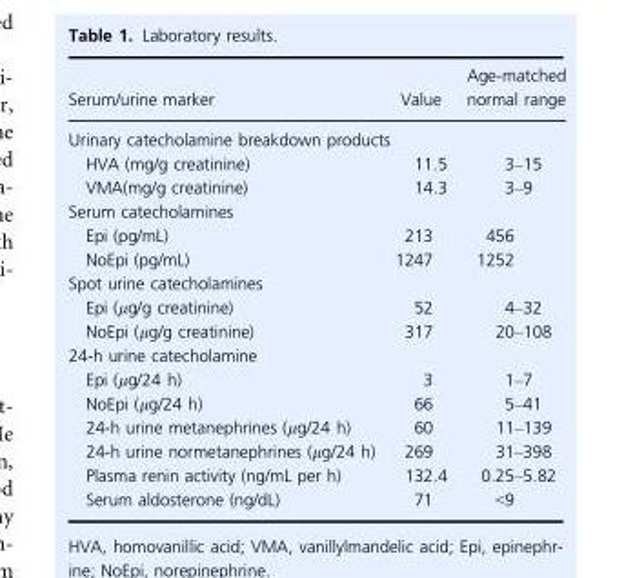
<table><thead><tr><td>Serum/urine marker</td><td>Value</td><td>Age-matched normal range</td></tr></thead><tbody><tr><td colspan="3">Urinary catecholamine breakdown products</td></tr><tr><td>HVA (mg/g creatinine)</td><td>11.5</td><td>3–15</td></tr><tr><td>VMA(mg/g creatinine)</td><td>14.3</td><td>3–9</td></tr><tr><td colspan="3">Serum catecholamines</td></tr><tr><td>Epi (pg/mL)</td><td>213</td><td>456</td></tr><tr><td>NoEpi (pg/mL)</td><td>1247</td><td>1252</td></tr><tr><td colspan="3">Spot urine catecholamines</td></tr><tr><td>Epi (μg/g creatinine)</td><td>52</td><td>4–32</td></tr><tr><td>NoEpi (μg/g creatinine)</td><td>317</td><td>20–108</td></tr><tr><td colspan="3">24-h urine catecholamine</td></tr><tr><td>Epi (μg/24 h)</td><td>3</td><td>1–7</td></tr><tr><td>NoEpi (μg/24 h)</td><td>66</td><td>5–41</td></tr><tr><td>24-h urine metanephrines (μg/24 h)</td><td>60</td><td>11–139</td></tr><tr><td>24-h urine normetanephrines (μg/24 h)</td><td>269</td><td>31–398</td></tr><tr><td>Plasma renin activity (ng/mL per h)</td><td>132.4</td><td>0.25–5.82</td></tr><tr><td>Serum aldosterone (ng/dL)</td><td>71</td><td>&lt;9</td></tr></tbody></table>